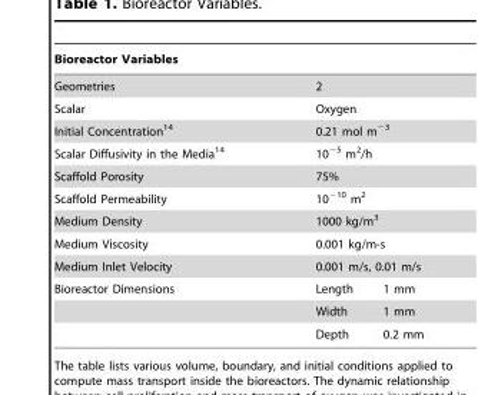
<table><thead><tr><td colspan="3">Bioreactor Variables</td></tr></thead><tbody><tr><td>Geometries</td><td colspan="2">2</td></tr><tr><td>Scalar</td><td colspan="2">Oxygen</td></tr><tr><td>Initial Concentration<sup>14</sup></td><td colspan="2">0.21 mol m<sup>−3</sup></td></tr><tr><td>Scalar Diffusivity in the Media<sup>14</sup></td><td colspan="2">10<sup>−5</sup> m<sup>2</sup>/h</td></tr><tr><td>Scaffold Porosity</td><td colspan="2">75%</td></tr><tr><td>Scaffold Permeability</td><td colspan="2">10<sup>−10</sup> m<sup>2</sup></td></tr><tr><td>Medium Density</td><td colspan="2">1000 kg/m<sup>3</sup></td></tr><tr><td>Medium Viscosity</td><td colspan="2">0.001 kg/m-s</td></tr><tr><td>Medium Inlet Velocity</td><td colspan="2">0.001 m/s, 0.01 m/s</td></tr><tr><td rowspan="3">Bioreactor Dimensions</td><td>Length</td><td>1 mm</td></tr><tr><td>Width</td><td>1 mm</td></tr><tr><td>Depth</td><td>0.2 mm</td></tr></tbody></table>